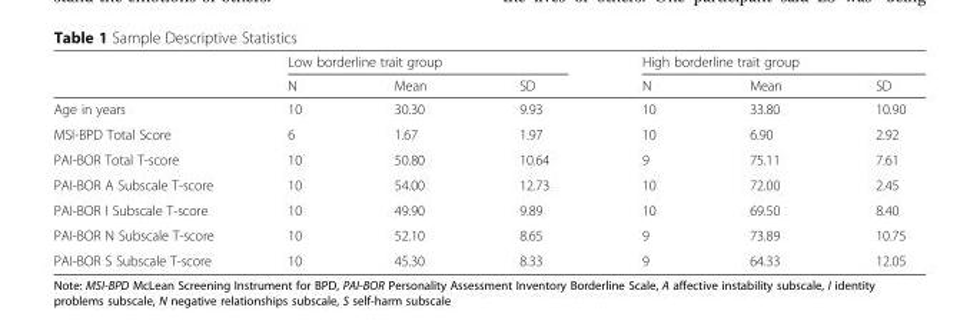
<table><thead><tr><td rowspan="2"></td><td colspan="3">Low borderline trait group</td><td colspan="3">High borderline trait group</td></tr><tr><td>N</td><td>Mean</td><td>SD</td><td>N</td><td>Mean</td><td>SD</td></tr></thead><tbody><tr><td>Age in years</td><td>10</td><td>30.30</td><td>9.93</td><td>10</td><td>33.80</td><td>10.90</td></tr><tr><td>MSI-BPD Total Score</td><td>6</td><td>1.67</td><td>1.97</td><td>10</td><td>6.90</td><td>2.92</td></tr><tr><td>PAI-BOR Total T-score</td><td>10</td><td>50.80</td><td>10.64</td><td>9</td><td>75.11</td><td>7.61</td></tr><tr><td>PAI-BOR A Subscale T-score</td><td>10</td><td>54.00</td><td>12.73</td><td>10</td><td>72.00</td><td>2.45</td></tr><tr><td>PAI-BOR I Subscale T-score</td><td>10</td><td>49.90</td><td>9.89</td><td>10</td><td>69.50</td><td>8.40</td></tr><tr><td>PAI-BOR N Subscale T-score</td><td>10</td><td>52.10</td><td>8.65</td><td>9</td><td>73.89</td><td>10.75</td></tr><tr><td>PAI-BOR S Subscale T-score</td><td>10</td><td>45.30</td><td>8.33</td><td>9</td><td>64.33</td><td>12.05</td></tr></tbody></table>